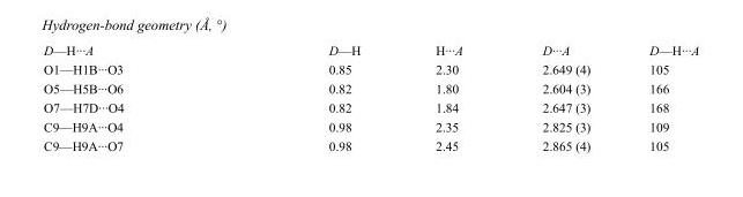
<table><tbody><tr><td>D—H···A</td><td>D—H</td><td>H···A</td><td>D···A</td><td>D—H···A</td></tr><tr><td>O1—H1B···O3</td><td>0.85</td><td>2.30</td><td>2.649 (4)</td><td>105</td></tr><tr><td>O5—H5B···O6</td><td>0.82</td><td>1.80</td><td>2.604 (3)</td><td>166</td></tr><tr><td>O7—H7D···O4</td><td>0.82</td><td>1.84</td><td>2.647 (3)</td><td>168</td></tr><tr><td>C9—H9A···O4</td><td>0.98</td><td>2.35</td><td>2.825 (3)</td><td>109</td></tr><tr><td>C9—H9A···O7</td><td>0.98</td><td>2.45</td><td>2.865 (4)</td><td>105</td></tr></tbody></table>